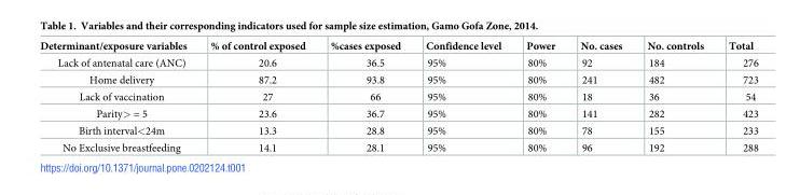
<table><thead><tr><td>Determinant/exposure variables</td><td>% of control exposed</td><td>%cases exposed</td><td>Confidence level</td><td>Power</td><td>No. cases</td><td>No. controls</td><td>Total</td></tr></thead><tbody><tr><td>Lack of antenatal care (ANC)</td><td>20.6</td><td>36.5</td><td>95%</td><td>80%</td><td>92</td><td>184</td><td>276</td></tr><tr><td>Home delivery</td><td>87.2</td><td>93.8</td><td>95%</td><td>80%</td><td>241</td><td>482</td><td>723</td></tr><tr><td>Lack of vaccination</td><td>27</td><td>66</td><td>95%</td><td>80%</td><td>18</td><td>36</td><td>54</td></tr><tr><td>Parity&gt; = 5</td><td>23.6</td><td>36.7</td><td>95%</td><td>80%</td><td>141</td><td>282</td><td>423</td></tr><tr><td>Birth interval&lt;24m</td><td>13.3</td><td>28.8</td><td>95%</td><td>80%</td><td>78</td><td>155</td><td>233</td></tr><tr><td>No Exclusive breastfeeding</td><td>14.1</td><td>28.1</td><td>95%</td><td>80%</td><td>96</td><td>192</td><td>288</td></tr></tbody></table>